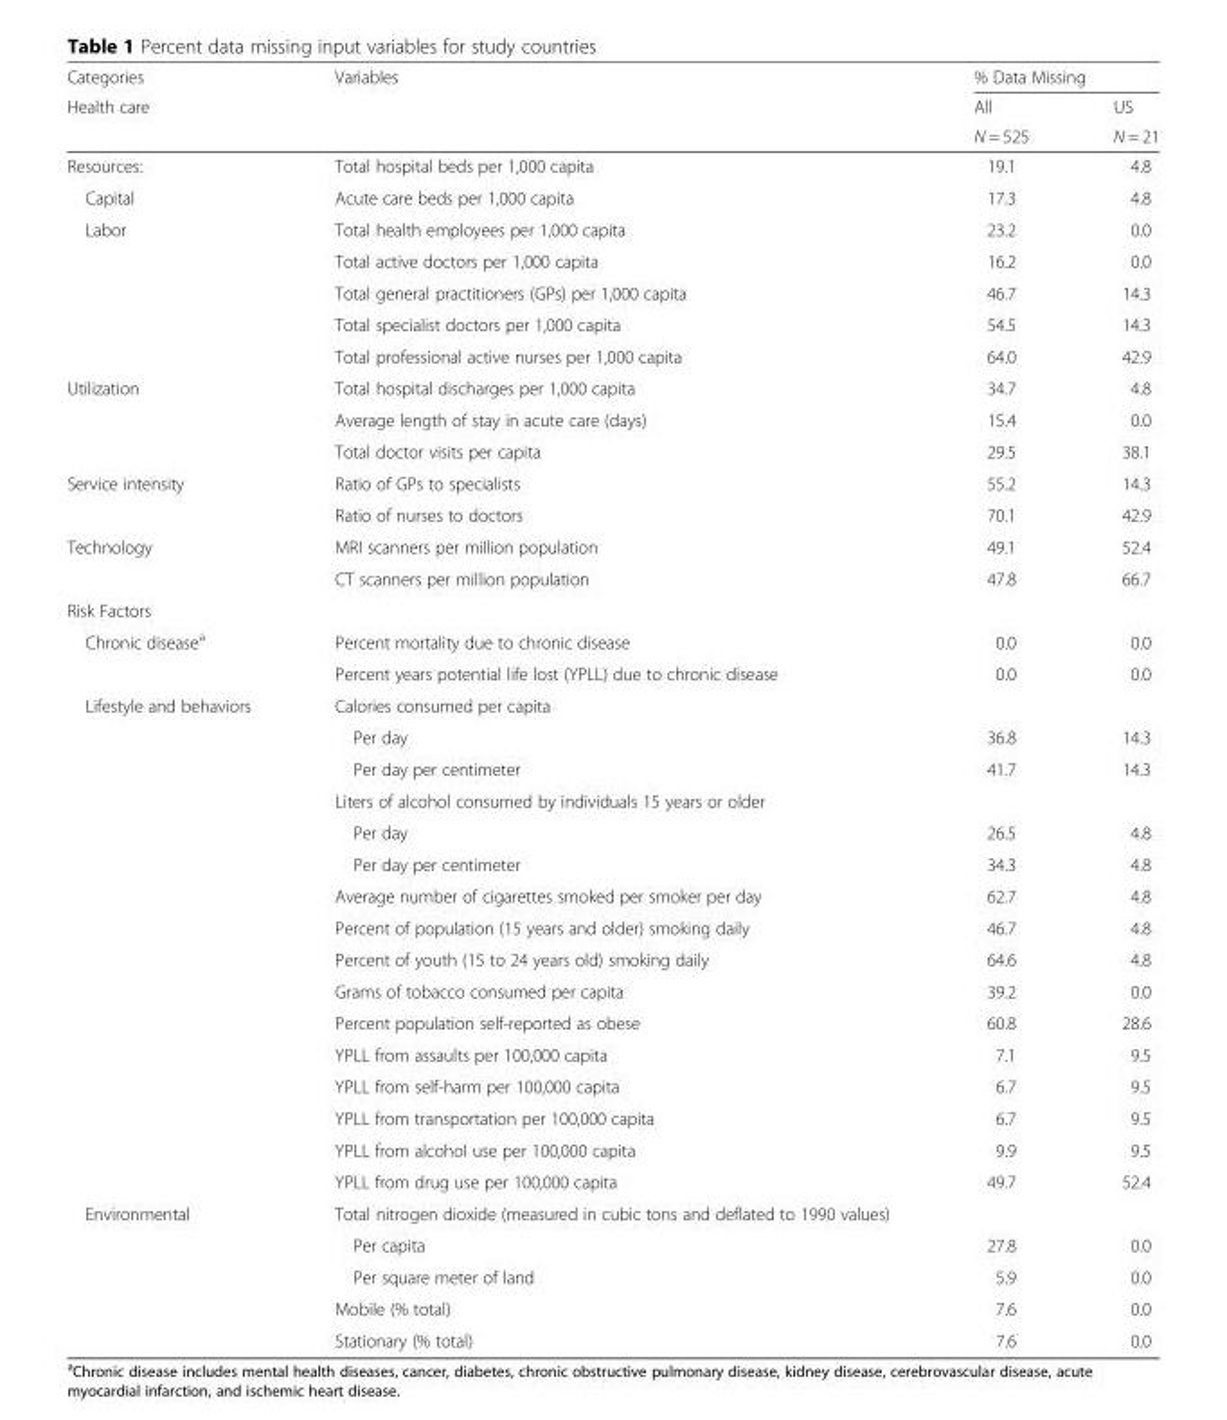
<table><thead><tr><td rowspan="3">Categories Health care</td><td rowspan="3">Variables</td><td colspan="2">% Data Missing</td></tr><tr><td rowspan="2">All N = 525</td><td rowspan="2">US N = 21</td></tr><tr></tr></thead><tbody><tr><td>Resources:</td><td>Total hospital beds per 1,000 capita</td><td>19.1</td><td>4.8</td></tr><tr><td>Capital</td><td>Acute care beds per 1,000 capita</td><td>17.3</td><td>4.8</td></tr><tr><td rowspan="5">Labor</td><td>Total health employees per 1,000 capita</td><td>23.2</td><td>0.0</td></tr><tr><td>Total active doctors per 1,000 capita</td><td>16.2</td><td>0.0</td></tr><tr><td>Total general practitioners (GPs) per 1,000 capita</td><td>46.7</td><td>14.3</td></tr><tr><td>Total specialist doctors per 1,000 capita</td><td>54.5</td><td>14.3</td></tr><tr><td>Total professional active nurses per 1,000 capita</td><td>64.0</td><td>42.9</td></tr><tr><td rowspan="3">Utilization</td><td>Total hospital discharges per 1,000 capita</td><td>34.7</td><td>4.8</td></tr><tr><td>Average length of stay in acute care (days)</td><td>15.4</td><td>0.0</td></tr><tr><td>Total doctor visits per capita</td><td>29.5</td><td>38.1</td></tr><tr><td rowspan="2">Service intensity</td><td>Ratio of GPs to specialists</td><td>55.2</td><td>14.3</td></tr><tr><td>Ratio of nurses to doctors</td><td>70.1</td><td>42.9</td></tr><tr><td rowspan="2">Technology</td><td>MRI scanners per million population</td><td>49.1</td><td>52.4</td></tr><tr><td>CT scanners per million population</td><td>47.8</td><td>66.7</td></tr><tr><td colspan="4">Risk Factors</td></tr><tr><td rowspan="2">Chronic disease<sup>a</sup></td><td>Percent mortality due to chronic disease</td><td>0.0</td><td>0.0</td></tr><tr><td>Percent years potential life lost (YPLL) due to chronic disease</td><td>0.0</td><td>0.0</td></tr><tr><td rowspan="16">Lifestyle and behaviors</td><td>Calories consumed per capita</td><td></td><td></td></tr><tr><td>Per day</td><td>36.8</td><td>14.3</td></tr><tr><td>Per day per centimeter</td><td>41.7</td><td>14.3</td></tr><tr><td>Liters of alcohol consumed by individuals 15 years or older</td><td></td><td></td></tr><tr><td>Per day</td><td>26.5</td><td>4.8</td></tr><tr><td>Per day per centimeter</td><td>34.3</td><td>4.8</td></tr><tr><td>Average number of cigarettes smoked per smoker per day</td><td>62.7</td><td>4.8</td></tr><tr><td>Percent of population (15 years and older) smoking daily</td><td>46.7</td><td>4.8</td></tr><tr><td>Percent of youth (15 to 24 years old) smoking daily</td><td>64.6</td><td>4.8</td></tr><tr><td>Grams of tobacco consumed per capita</td><td>39.2</td><td>0.0</td></tr><tr><td>Percent population self-reported as obese</td><td>60.8</td><td>28.6</td></tr><tr><td>YPLL from assaults per 100,000 capita</td><td>7.1</td><td>9.5</td></tr><tr><td>YPLL from self-harm per 100,000 capita</td><td>6.7</td><td>9.5</td></tr><tr><td>YPLL from transportation per 100,000 capita</td><td>6.7</td><td>9.5</td></tr><tr><td>YPLL from alcohol use per 100,000 capita</td><td>9.9</td><td>9.5</td></tr><tr><td>YPLL from drug use per 100,000 capita</td><td>49.7</td><td>52.4</td></tr><tr><td rowspan="5">Environmental</td><td>Total nitrogen dioxide (measured in cubic tons and deflated to 1990 values)</td><td></td><td></td></tr><tr><td>Per capita</td><td>27.8</td><td>0.0</td></tr><tr><td>Per square meter of land</td><td>5.9</td><td>0.0</td></tr><tr><td>Mobile (% total)</td><td>7.6</td><td>0.0</td></tr><tr><td>Stationary (% total)</td><td>7.6</td><td>0.0</td></tr></tbody></table>